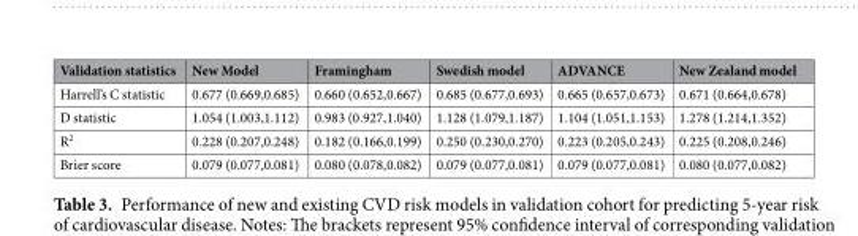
<table><thead><tr><td>Validation statistics</td><td>New Model</td><td>Framingham</td><td>Swedish model</td><td>ADVANCE</td><td>New Zealand model</td></tr></thead><tbody><tr><td>Harrell’s C statistic</td><td>0.677 (0.669,0.685)</td><td>0.660 (0.652,0.667)</td><td>0.685 (0.677,0.693)</td><td>0.665 (0.657,0.673)</td><td>0.671 (0.664,0.678)</td></tr><tr><td>D statistic</td><td>1.054 (1.003,1.112)</td><td>0.983 (0.927,1.040)</td><td>1.128 (1.079,1.187)</td><td>1.104 (1.051,1.153)</td><td>1.278 (1.214,1.352)</td></tr><tr><td>R<sup>2</sup></td><td>0.228 (0.207,0.248)</td><td>0.182 (0.166,0.199)</td><td>0.250 (0.230,0.270)</td><td>0.223 (0.205,0.243)</td><td>0.225 (0.208,0.246)</td></tr><tr><td>Brier score</td><td>0.079 (0.077,0.081)</td><td>0.080 (0.078,0.082)</td><td>0.079 (0.077,0.081)</td><td>0.079 (0.077,0.081)</td><td>0.080 (0.077,0.082)</td></tr></tbody></table>